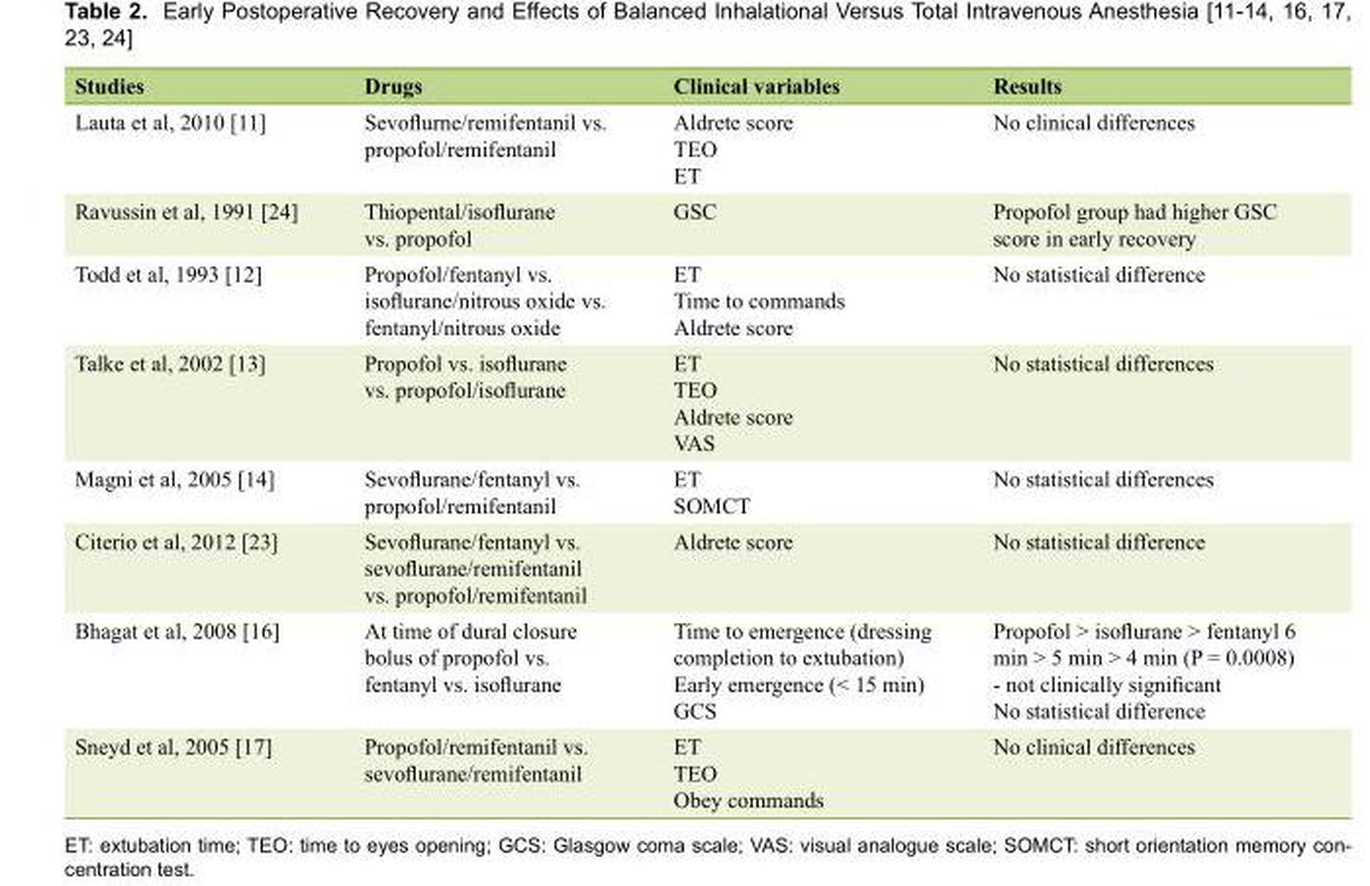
<table><thead><tr><td>Studies</td><td>Drugs</td><td>Clinical variables</td><td>Results</td></tr></thead><tbody><tr><td>Lauta et al, 2010 [11]</td><td>Sevoflurne/remifentanil vs. propofol/remifentanil</td><td>Aldrete score TEO ET</td><td>No clinical differences</td></tr><tr><td>Ravussin et al, 1991 [24]</td><td>Thiopental/isoflurane vs. propofol</td><td>GSC</td><td>Propofol group had higher GSC score in early recovery</td></tr><tr><td>Todd et al, 1993 [12]</td><td>Propofol/fentanyl vs. isoflurane/nitrous oxide vs. fentanyl/nitrous oxide</td><td>ET Time to commands Aldrete score</td><td>No statistical difference</td></tr><tr><td>Talke et al, 2002 [13]</td><td>Propofol vs. isoflurane vs. propofol/isoflurane</td><td>ET TEO Aldrete score VAS</td><td>No statistical differences</td></tr><tr><td>Magni et al, 2005 [14]</td><td>Sevoflurane/fentanyl vs. propofol/remifentanil</td><td>ET SOMCT</td><td>No statistical differences</td></tr><tr><td>Citerio et al, 2012 [23]</td><td>Sevoflurane/fentanyl vs. sevoflurane/remifentanil vs. propofol/remifentanil</td><td>Aldrete score</td><td>No statistical difference</td></tr><tr><td>Bhagat et al, 2008 [16]</td><td>At time of dural closure bolus of propofol vs. fentanyl vs. isoflurane</td><td>Time to emergence (dressing completion to extubation) Early emergence (&lt; 15 min) GCS</td><td>Propofol &gt; isoflurane &gt; fentanyl 6 min &gt; 5 min &gt; 4 min (P = 0.0008) - not clinically significant No statistical difference</td></tr><tr><td>Sneyd et al, 2005 [17]</td><td>Propofol/remifentanil vs. sevoflurane/remifentanil</td><td>ET TEO Obey commands</td><td>No clinical differences</td></tr></tbody></table>